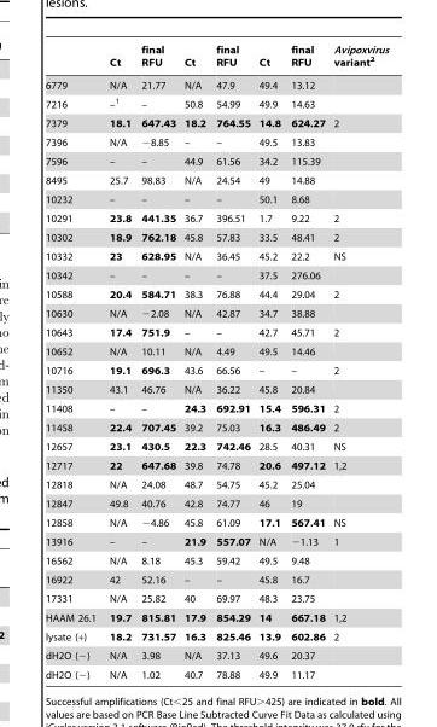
<table><thead><tr><td></td><td>Ct</td><td>final RFU</td><td>Ct</td><td>final RFU</td><td>Ct</td><td>final RFU</td><td>Avipoxvirus variant<sup>2</sup></td></tr></thead><tbody><tr><td>6779</td><td>N/A</td><td>21.77</td><td>N/A</td><td>47.9</td><td>49.4</td><td>13.12</td><td></td></tr><tr><td>7216</td><td>–1</td><td>–</td><td>50.8</td><td>54.99</td><td>49.9</td><td>14.63</td><td></td></tr><tr><td>7379</td><td>18.1</td><td>647.43</td><td>18.2</td><td>764.55</td><td>14.8</td><td>624.27</td><td>2</td></tr><tr><td>7396</td><td>N/A</td><td>−8.85</td><td>–</td><td>–</td><td>49.5</td><td>13.83</td><td></td></tr><tr><td>7596</td><td>–</td><td>–</td><td>44.9</td><td>61.56</td><td>34.2</td><td>115.39</td><td></td></tr><tr><td>8495</td><td>25.7</td><td>98.83</td><td>N/A</td><td>24.54</td><td>49</td><td>14.88</td><td></td></tr><tr><td>10232</td><td>–</td><td>–</td><td>–</td><td>–</td><td>50.1</td><td>8.68</td><td></td></tr><tr><td>10291</td><td>23.8</td><td>441.35</td><td>36.7</td><td>396.51</td><td>1.7</td><td>9.22</td><td>2</td></tr><tr><td>10302</td><td>18.9</td><td>762.18</td><td>45.8</td><td>57.83</td><td>33.5</td><td>48.41</td><td>2</td></tr><tr><td>10332</td><td>23</td><td>628.95</td><td>N/A</td><td>36.45</td><td>45.2</td><td>22.2</td><td>NS</td></tr><tr><td>10342</td><td>–</td><td>–</td><td>–</td><td>–</td><td>37.5</td><td>276.06</td><td></td></tr><tr><td>10588</td><td>20.4</td><td>584.71</td><td>38.3</td><td>76.88</td><td>44.4</td><td>29.04</td><td>2</td></tr><tr><td>10630</td><td>N/A</td><td>−2.08</td><td>N/A</td><td>42.87</td><td>34.7</td><td>38.88</td><td></td></tr><tr><td>10643</td><td>17.4</td><td>751.9</td><td>–</td><td>–</td><td>42.7</td><td>45.71</td><td>2</td></tr><tr><td>10652</td><td>N/A</td><td>10.11</td><td>N/A</td><td>4.49</td><td>49.5</td><td>14.46</td><td></td></tr><tr><td>10716</td><td>19.1</td><td>696.3</td><td>43.6</td><td>66.56</td><td>–</td><td>–</td><td>2</td></tr><tr><td>11350</td><td>43.1</td><td>46.76</td><td>N/A</td><td>36.22</td><td>45.8</td><td>20.84</td><td></td></tr><tr><td>11408</td><td>–</td><td>–</td><td>24.3</td><td>692.91</td><td>15.4</td><td>596.31</td><td>2</td></tr><tr><td>11458</td><td>22.4</td><td>707.45</td><td>39.2</td><td>75.03</td><td>16.3</td><td>486.49</td><td>2</td></tr><tr><td>12657</td><td>23.1</td><td>430.5</td><td>22.3</td><td>742.46</td><td>28.5</td><td>40.31</td><td>NS</td></tr><tr><td>12717</td><td>22</td><td>647.68</td><td>39.8</td><td>74.78</td><td>20.6</td><td>497.12</td><td>1,2</td></tr><tr><td>12818</td><td>N/A</td><td>24.08</td><td>48.7</td><td>54.75</td><td>45.2</td><td>25.04</td><td></td></tr><tr><td>12847</td><td>49.8</td><td>40.76</td><td>42.8</td><td>74.77</td><td>46</td><td>19</td><td></td></tr><tr><td>12858</td><td>N/A</td><td>−4.86</td><td>45.8</td><td>61.09</td><td>17.1</td><td>567.41</td><td>NS</td></tr><tr><td>13916</td><td>–</td><td>–</td><td>21.9</td><td>557.07</td><td>N/A</td><td>−1.13</td><td>1</td></tr><tr><td>16562</td><td>N/A</td><td>8.18</td><td>45.3</td><td>59.42</td><td>49.5</td><td>9.48</td><td></td></tr><tr><td>16922</td><td>42</td><td>52.16</td><td>–</td><td>–</td><td>45.8</td><td>16.7</td><td></td></tr><tr><td>17331</td><td>N/A</td><td>25.82</td><td>40</td><td>69.97</td><td>48.3</td><td>23.75</td><td></td></tr><tr><td>HAAM 26.1</td><td>19.7</td><td>815.81</td><td>17.9</td><td>854.29</td><td>14</td><td>667.18</td><td>1,2</td></tr><tr><td>lysate (+)</td><td>18.2</td><td>731.57</td><td>16.3</td><td>825.46</td><td>13.9</td><td>602.86</td><td>2</td></tr><tr><td>dH2O (−)</td><td>N/A</td><td>3.98</td><td>N/A</td><td>37.13</td><td>49.6</td><td>20.37</td><td></td></tr><tr><td>dH2O (−)</td><td>N/A</td><td>1.02</td><td>40.7</td><td>78.88</td><td>49.9</td><td>11.17</td><td></td></tr></tbody></table>